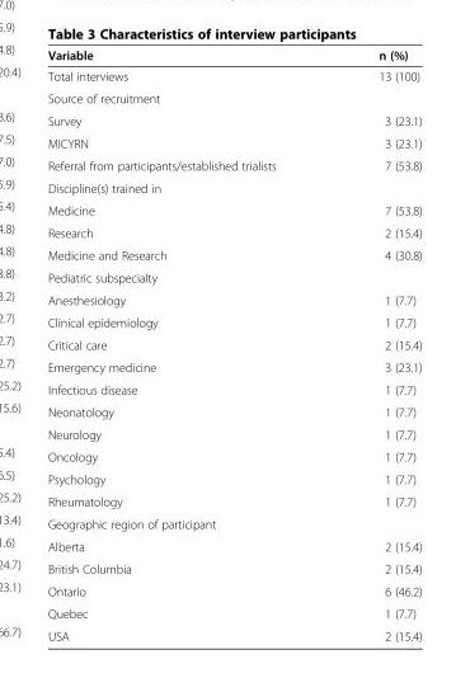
<table><thead><tr><td>Variable</td><td>n (%)</td></tr></thead><tbody><tr><td>Total interviews</td><td>13 (100)</td></tr><tr><td colspan="2">Source of recruitment</td></tr><tr><td>Survey</td><td>3 (23.1)</td></tr><tr><td>MICYRN</td><td>3 (23.1)</td></tr><tr><td>Referral from participants/established trialists</td><td>7 (53.8)</td></tr><tr><td colspan="2">Discipline(s) trained in</td></tr><tr><td>Medicine</td><td>7 (53.8)</td></tr><tr><td>Research</td><td>2 (15.4)</td></tr><tr><td>Medicine and Research</td><td>4 (30.8)</td></tr><tr><td colspan="2">Pediatric subspecialty</td></tr><tr><td>Anesthesiology</td><td>1 (7.7)</td></tr><tr><td>Clinical epidemiology</td><td>1 (7.7)</td></tr><tr><td>Critical care</td><td>2 (15.4)</td></tr><tr><td>Emergency medicine</td><td>3 (23.1)</td></tr><tr><td>Infectious disease</td><td>1 (7.7)</td></tr><tr><td>Neonatology</td><td>1 (7.7)</td></tr><tr><td>Neurology</td><td>1 (7.7)</td></tr><tr><td>Oncology</td><td>1 (7.7)</td></tr><tr><td>Psychology</td><td>1 (7.7)</td></tr><tr><td>Rheumatology</td><td>1 (7.7)</td></tr><tr><td colspan="2">Geographic region of participant</td></tr><tr><td>Alberta</td><td>2 (15.4)</td></tr><tr><td>British Columbia</td><td>2 (15.4)</td></tr><tr><td>Ontario</td><td>6 (46.2)</td></tr><tr><td>Quebec</td><td>1 (7.7)</td></tr><tr><td>USA</td><td>2 (15.4)</td></tr></tbody></table>